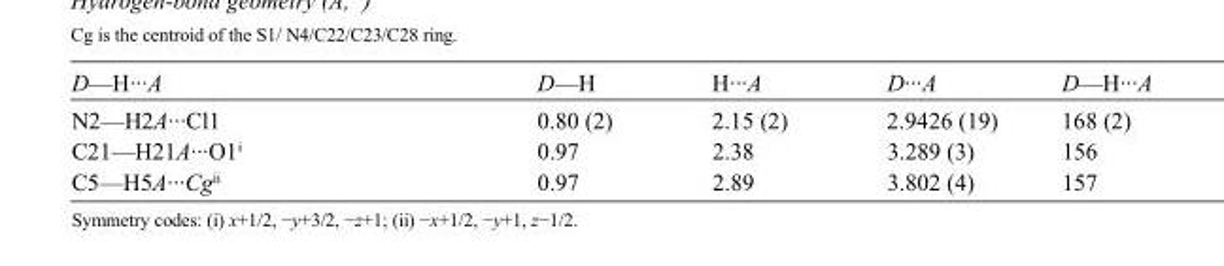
<table><tbody><tr><td>D—H···A</td><td>D—H</td><td>H···A</td><td>D···A</td><td>D—H···A</td></tr><tr><td>N2—H2A···Cl1</td><td>0.80 (2)</td><td>2.15 (2)</td><td>2.9426 (19)</td><td>168 (2)</td></tr><tr><td>C21—H21A···O1<sup>i</sup></td><td>0.97</td><td>2.38</td><td>3.289 (3)</td><td>156</td></tr><tr><td>C5—H5A···Cg<sup>ii</sup></td><td>0.97</td><td>2.89</td><td>3.802 (4)</td><td>157</td></tr></tbody></table>